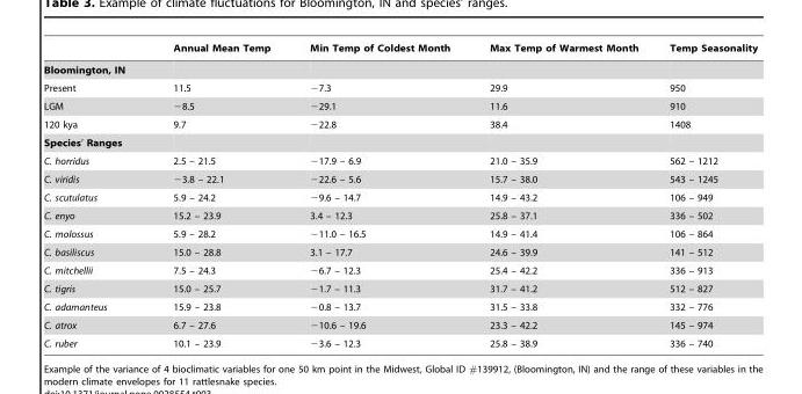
<table><thead><tr><td></td><td>Annual Mean Temp</td><td>Min Temp of Coldest Month</td><td>Max Temp of Warmest Month</td><td>Temp Seasonality</td></tr></thead><tbody><tr><td colspan="5">Bloomington, IN</td></tr><tr><td>Present</td><td>11.5</td><td>−7.3</td><td>29.9</td><td>950</td></tr><tr><td>LGM</td><td>−8.5</td><td>−29.1</td><td>11.6</td><td>910</td></tr><tr><td>120 kya</td><td>9.7</td><td>−22.8</td><td>38.4</td><td>1408</td></tr><tr><td colspan="5">Species’ Ranges</td></tr><tr><td>C. horridus</td><td>2.5 – 21.5</td><td>−17.9 – 6.9</td><td>21.0 – 35.9</td><td>562 – 1212</td></tr><tr><td>C. viridis</td><td>−3.8 – 22.1</td><td>−22.6 – 5.6</td><td>15.7 – 38.0</td><td>543 – 1245</td></tr><tr><td>C. scutulatus</td><td>5.9 – 24.2</td><td>−9.6 – 14.7</td><td>14.9 – 43.2</td><td>106 – 949</td></tr><tr><td>C. enyo</td><td>15.2 – 23.9</td><td>3.4 – 12.3</td><td>25.8 – 37.1</td><td>336 – 502</td></tr><tr><td>C. molossus</td><td>5.9 – 28.2</td><td>−11.0 – 16.5</td><td>14.9 – 41.4</td><td>106 – 864</td></tr><tr><td>C. basiliscus</td><td>15.0 – 28.8</td><td>3.1 – 17.7</td><td>24.6 – 39.9</td><td>141 – 512</td></tr><tr><td>C. mitchellii</td><td>7.5 – 24.3</td><td>−6.7 – 12.3</td><td>25.4 – 42.2</td><td>336 – 913</td></tr><tr><td>C. tigris</td><td>15.0 – 25.7</td><td>−1.7 – 11.3</td><td>31.7 – 41.2</td><td>512 – 827</td></tr><tr><td>C. adamanteus</td><td>15.9 – 23.8</td><td>−0.8 – 13.7</td><td>31.5 – 33.8</td><td>332 – 776</td></tr><tr><td>C. atrox</td><td>6.7 – 27.6</td><td>−10.6 – 19.6</td><td>23.3 – 42.2</td><td>145 – 974</td></tr><tr><td>C. ruber</td><td>10.1 – 23.9</td><td>−3.6 – 12.3</td><td>25.8 – 38.9</td><td>336 – 740</td></tr></tbody></table>